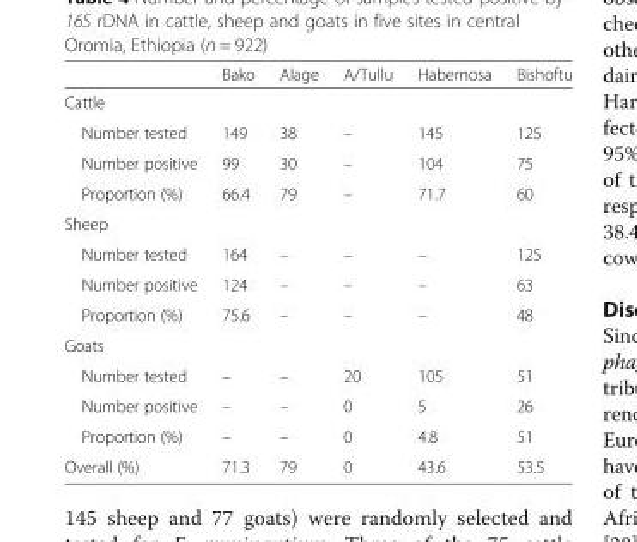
<table><thead><tr><td></td><td>Bako</td><td>Alage</td><td>A/Tullu</td><td>Habernosa</td><td>Bishoftu</td></tr></thead><tbody><tr><td colspan="6">Cattle</td></tr><tr><td>Number tested</td><td>149</td><td>38</td><td>–</td><td>145</td><td>125</td></tr><tr><td>Number positive</td><td>99</td><td>30</td><td>–</td><td>104</td><td>75</td></tr><tr><td>Proportion (%)</td><td>66.4</td><td>79</td><td>–</td><td>71.7</td><td>60</td></tr><tr><td colspan="6">Sheep</td></tr><tr><td>Number tested</td><td>164</td><td>–</td><td>–</td><td>–</td><td>125</td></tr><tr><td>Number positive</td><td>124</td><td>–</td><td>–</td><td>–</td><td>63</td></tr><tr><td>Proportion (%)</td><td>75.6</td><td>–</td><td>–</td><td>–</td><td>48</td></tr><tr><td colspan="6">Goats</td></tr><tr><td>Number tested</td><td>–</td><td>–</td><td>20</td><td>105</td><td>51</td></tr><tr><td>Number positive</td><td>–</td><td>–</td><td>0</td><td>5</td><td>26</td></tr><tr><td>Proportion (%)</td><td>–</td><td>–</td><td>0</td><td>4.8</td><td>51</td></tr><tr><td>Overall (%)</td><td>71.3</td><td>79</td><td>0</td><td>43.6</td><td>53.5</td></tr></tbody></table>